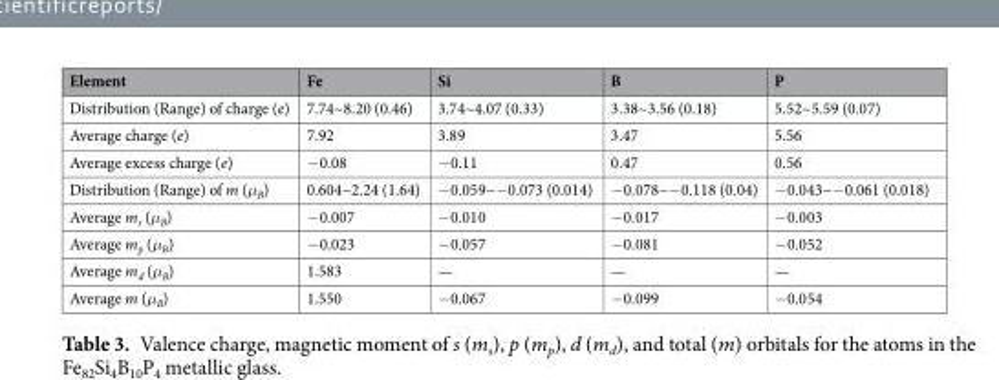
<table><thead><tr><td>Element</td><td>Fe</td><td>Si</td><td>B</td><td>P</td></tr></thead><tbody><tr><td>Distribution (Range) of charge (e)</td><td>7.74~8.20 (0.46)</td><td>3.74~4.07 (0.33)</td><td>3.38~3.56 (0.18)</td><td>5.52~5.59 (0.07)</td></tr><tr><td>Average charge (e)</td><td>7.92</td><td>3.89</td><td>3.47</td><td>5.56</td></tr><tr><td>Average excess charge (e)</td><td>−0.08</td><td>−0.11</td><td>0.47</td><td>0.56</td></tr><tr><td>Distribution (Range) of m (μ<sub>B</sub>)</td><td>0.604~2.24 (1.64)</td><td>−0.059~−0.073 (0.014)</td><td>−0.078~−0.118 (0.04)</td><td>−0.043~−0.061 (0.018)</td></tr><tr><td>Average m<sub>s</sub> (μ<sub>B</sub>)</td><td>−0.007</td><td>−0.010</td><td>−0.017</td><td>−0.003</td></tr><tr><td>Average m<sub>p</sub> (μ<sub>B</sub>)</td><td>−0.023</td><td>−0.057</td><td>−0.081</td><td>−0.052</td></tr><tr><td>Average m<sub>d</sub> (μ<sub>B</sub>)</td><td>1.583</td><td>—</td><td>—</td><td>—</td></tr><tr><td>Average m (μ<sub>B</sub>)</td><td>1.550</td><td>−0.067</td><td>−0.099</td><td>−0.054</td></tr></tbody></table>